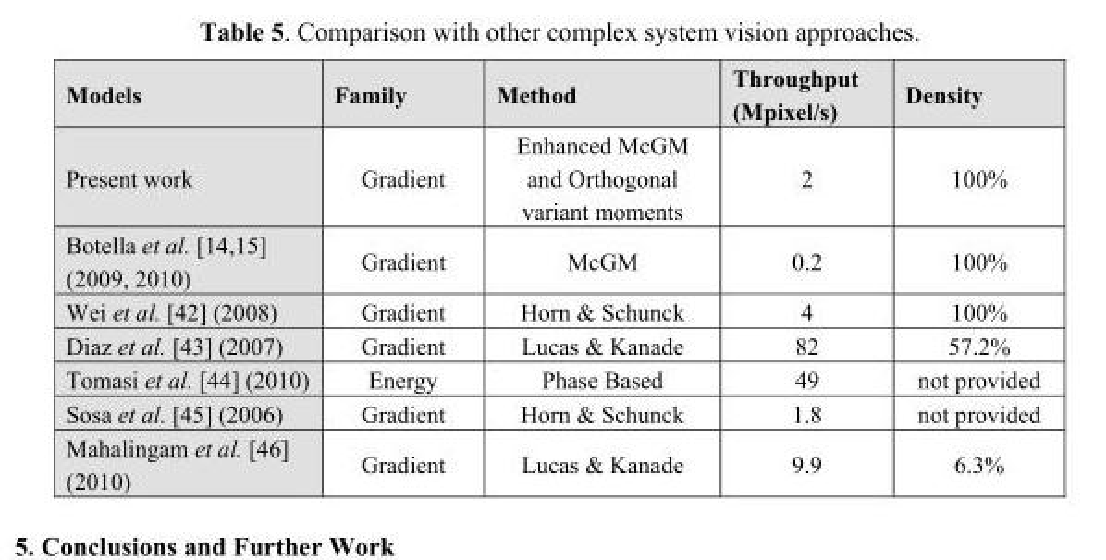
<table><thead><tr><td>Models</td><td>Family</td><td>Method</td><td>Throughput (Mpixel/s)</td><td>Density</td></tr></thead><tbody><tr><td>Present work</td><td>Gradient</td><td>Enhanced McGM and Orthogonal variant moments</td><td>2</td><td>100%</td></tr><tr><td>Botella et al. [14,15] (2009, 2010)</td><td>Gradient</td><td>McGM</td><td>0.2</td><td>100%</td></tr><tr><td>Wei et al. [42] (2008)</td><td>Gradient</td><td>Horn &amp; Schunck</td><td>4</td><td>100%</td></tr><tr><td>Diaz et al. [43] (2007)</td><td>Gradient</td><td>Lucas &amp; Kanade</td><td>82</td><td>57.2%</td></tr><tr><td>Tomasi et al. [44] (2010)</td><td>Energy</td><td>Phase Based</td><td>49</td><td>not provided</td></tr><tr><td>Sosa et al. [45] (2006)</td><td>Gradient</td><td>Horn &amp; Schunck</td><td>1.8</td><td>not provided</td></tr><tr><td>Mahalingam et al. [46] (2010)</td><td>Gradient</td><td>Lucas &amp; Kanade</td><td>9.9</td><td>6.3%</td></tr></tbody></table>